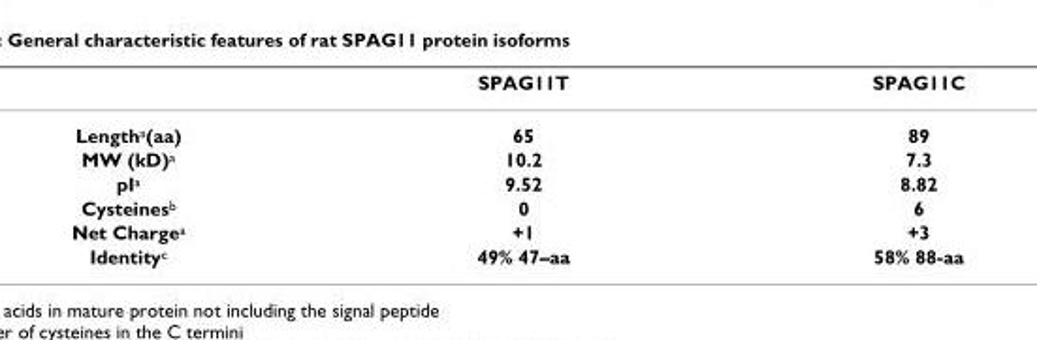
<table><thead><tr><td></td><td>SPAG11T</td><td>SPAG11C</td></tr></thead><tbody><tr><td>Length<sup>a</sup>(aa)</td><td>65</td><td>89</td></tr><tr><td>MW (kD)<sup>a</sup></td><td>10.2</td><td>7.3</td></tr><tr><td>pI<sup>a</sup></td><td>9.52</td><td>8.82</td></tr><tr><td>Cysteines<sup>b</sup></td><td>0</td><td>6</td></tr><tr><td>Net Charge<sup>a</sup></td><td>+1</td><td>+3</td></tr><tr><td>Identity<sup>c</sup></td><td>49% 47–aa</td><td>58% 88-aa</td></tr></tbody></table>